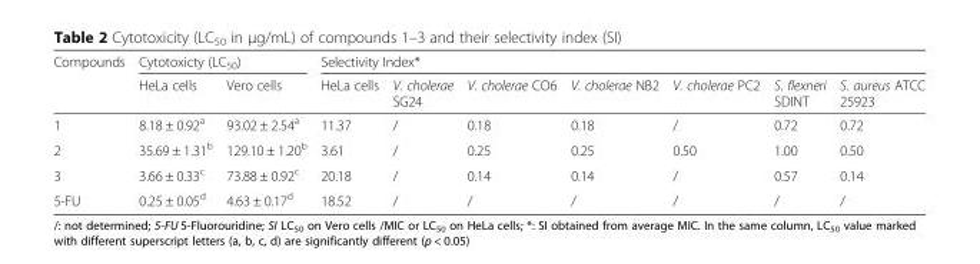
<table><thead><tr><td rowspan="2">Compounds</td><td colspan="2">Cytotoxicty (LC<sub>50</sub>)</td><td colspan="7">Selectivity Index*</td></tr><tr><td>HeLa cells</td><td>Vero cells</td><td>HeLa cells</td><td>V. cholerae SG24</td><td>V. cholerae CO6</td><td>V. cholerae NB2</td><td>V. cholerae PC2</td><td>S. flexneri SDINT</td><td>S. aureus ATCC 25923</td></tr></thead><tbody><tr><td>1</td><td>8.18 ± 0.92<sup>a</sup></td><td>93.02 ± 2.54<sup>a</sup></td><td>11.37</td><td>/</td><td>0.18</td><td>0.18</td><td>/</td><td>0.72</td><td>0.72</td></tr><tr><td>2</td><td>35.69 ± 1.31<sup>b</sup></td><td>129.10 ± 1.20<sup>b</sup></td><td>3.61</td><td>/</td><td>0.25</td><td>0.25</td><td>0.50</td><td>1.00</td><td>0.50</td></tr><tr><td>3</td><td>3.66 ± 0.33<sup>c</sup></td><td>73.88 ± 0.92<sup>c</sup></td><td>20.18</td><td>/</td><td>0.14</td><td>0.14</td><td>/</td><td>0.57</td><td>0.14</td></tr><tr><td>5-FU</td><td>0.25 ± 0.05<sup>d</sup></td><td>4.63 ± 0.17<sup>d</sup></td><td>18.52</td><td>/</td><td>/</td><td>/</td><td>/</td><td>/</td><td>/</td></tr></tbody></table>